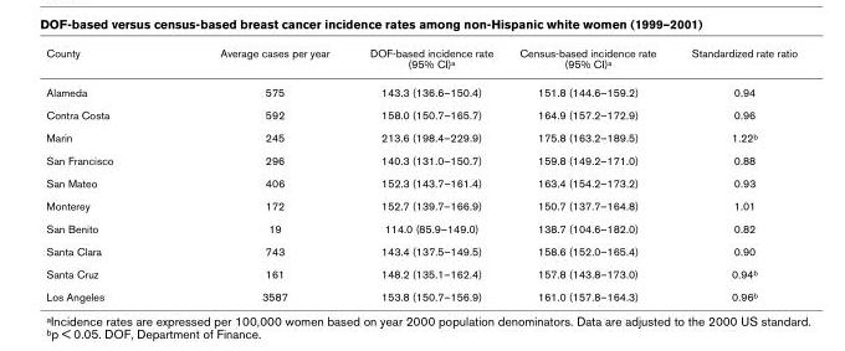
<table><thead><tr><td>County</td><td>Average cases per year</td><td>DOF-based incidence rate (95% CI)a</td><td>Census-based incidence rate (95% CI)a</td><td>Standardized rate ratio</td></tr></thead><tbody><tr><td>Alameda</td><td>575</td><td>143.3 (136.6–150.4)</td><td>151.8 (144.6–159.2)</td><td>0.94</td></tr><tr><td>Contra Costa</td><td>592</td><td>158.0 (150.7–165.7)</td><td>164.9 (157.2–172.9)</td><td>0.96</td></tr><tr><td>Marin</td><td>245</td><td>213.6 (198.4–229.9)</td><td>175.8 (163.2–189.5)</td><td>1.22b</td></tr><tr><td>San Francisco</td><td>296</td><td>140.3 (131.0–150.7)</td><td>159.8 (149.2–171.0)</td><td>0.88</td></tr><tr><td>San Mateo</td><td>406</td><td>152.3 (143.7–161.4)</td><td>163.4 (154.2–173.2)</td><td>0.93</td></tr><tr><td>Monterey</td><td>172</td><td>152.7 (139.7–166.9)</td><td>150.7 (137.7–164.8)</td><td>1.01</td></tr><tr><td>San Benito</td><td>19</td><td>114.0 (85.9–149.0)</td><td>138.7 (104.6–182.0)</td><td>0.82</td></tr><tr><td>Santa Clara</td><td>743</td><td>143.4 (137.5–149.5)</td><td>158.6 (152.0–165.4)</td><td>0.90</td></tr><tr><td>Santa Cruz</td><td>161</td><td>148.2 (135.1–162.4)</td><td>157.8 (143.8–173.0)</td><td>0.94b</td></tr><tr><td>Los Angeles</td><td>3587</td><td>153.8 (150.7–156.9)</td><td>161.0 (157.8–164.3)</td><td>0.96b</td></tr></tbody></table>